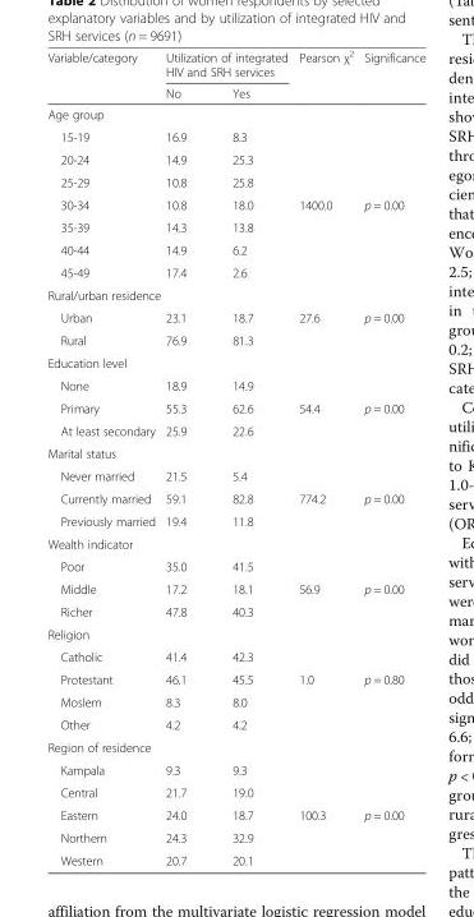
<table><thead><tr><td rowspan="2">Variable/category</td><td colspan="2">Utilization of integrated HIV and SRH services</td><td rowspan="2">Pearson χ<sup>2</sup></td><td rowspan="2">Significance</td></tr><tr><td>No</td><td>Yes</td></tr></thead><tbody><tr><td colspan="5">Age group</td></tr><tr><td>15-19</td><td>16.9</td><td>8.3</td><td></td><td></td></tr><tr><td>20-24</td><td>14.9</td><td>25.3</td><td></td><td></td></tr><tr><td>25-29</td><td>10.8</td><td>25.8</td><td></td><td></td></tr><tr><td>30-34</td><td>10.8</td><td>18.0</td><td>1400.0</td><td>p = 0.00</td></tr><tr><td>35-39</td><td>14.3</td><td>13.8</td><td></td><td></td></tr><tr><td>40-44</td><td>14.9</td><td>6.2</td><td></td><td></td></tr><tr><td>45-49</td><td>17.4</td><td>2.6</td><td></td><td></td></tr><tr><td colspan="5">Rural/urban residence</td></tr><tr><td>Urban</td><td>23.1</td><td>18.7</td><td>27.6</td><td>p = 0.00</td></tr><tr><td>Rural</td><td>76.9</td><td>81.3</td><td></td><td></td></tr><tr><td colspan="5">Education level</td></tr><tr><td>None</td><td>18.9</td><td>14.9</td><td></td><td></td></tr><tr><td>Primary</td><td>55.3</td><td>62.6</td><td>54.4</td><td>p = 0.00</td></tr><tr><td>At least secondary</td><td>25.9</td><td>22.6</td><td></td><td></td></tr><tr><td colspan="5">Marital status</td></tr><tr><td>Never married</td><td>21.5</td><td>5.4</td><td></td><td></td></tr><tr><td>Currently married</td><td>59.1</td><td>82.8</td><td>774.2</td><td>p = 0.00</td></tr><tr><td>Previously married</td><td>19.4</td><td>11.8</td><td></td><td></td></tr><tr><td colspan="5">Wealth indicator</td></tr><tr><td>Poor</td><td>35.0</td><td>41.5</td><td></td><td></td></tr><tr><td>Middle</td><td>17.2</td><td>18.1</td><td>56.9</td><td>p = 0.00</td></tr><tr><td>Richer</td><td>47.8</td><td>40.3</td><td></td><td></td></tr><tr><td colspan="5">Religion</td></tr><tr><td>Catholic</td><td>41.4</td><td>42.3</td><td></td><td></td></tr><tr><td>Protestant</td><td>46.1</td><td>45.5</td><td>1.0</td><td>p = 0.80</td></tr><tr><td>Moslem</td><td>8.3</td><td>8.0</td><td></td><td></td></tr><tr><td>Other</td><td>4.2</td><td>4.2</td><td></td><td></td></tr><tr><td colspan="5">Region of residence</td></tr><tr><td>Kampala</td><td>9.3</td><td>9.3</td><td></td><td></td></tr><tr><td>Central</td><td>21.7</td><td>19.0</td><td></td><td></td></tr><tr><td>Eastern</td><td>24.0</td><td>18.7</td><td>100.3</td><td>p = 0.00</td></tr><tr><td>Northern</td><td>24.3</td><td>32.9</td><td></td><td></td></tr><tr><td>Western</td><td>20.7</td><td>20.1</td><td></td><td></td></tr></tbody></table>